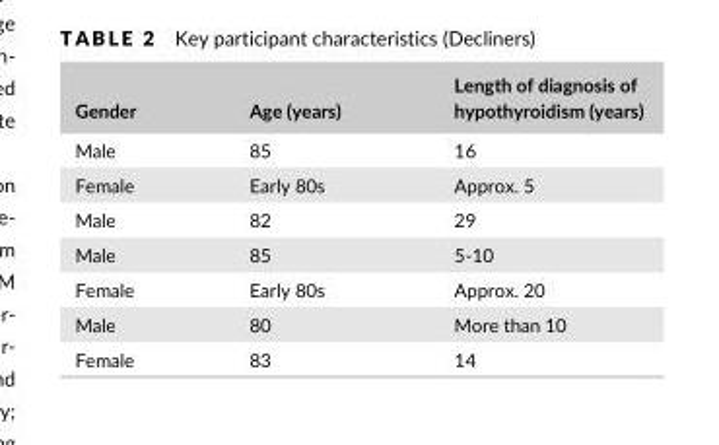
<table><thead><tr><td>Gender</td><td>Age (years)</td><td>Length of diagnosis of hypothyroidism (years)</td></tr></thead><tbody><tr><td>Male</td><td>85</td><td>16</td></tr><tr><td>Female</td><td>Early 80s</td><td>Approx. 5</td></tr><tr><td>Male</td><td>82</td><td>29</td></tr><tr><td>Male</td><td>85</td><td>5- 10</td></tr><tr><td>Female</td><td>Early 80s</td><td>Approx. 20</td></tr><tr><td>Male</td><td>80</td><td>More than 10</td></tr><tr><td>Female</td><td>83</td><td>14</td></tr></tbody></table>